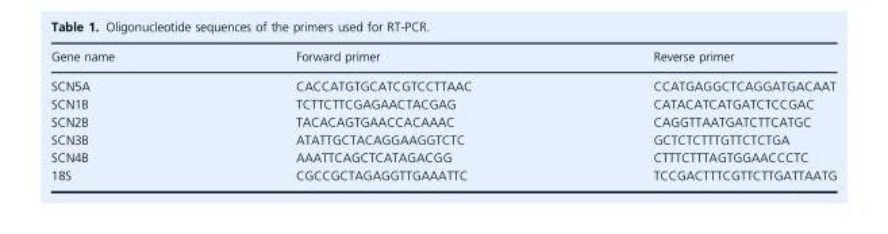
<table><thead><tr><td>Gene name</td><td>Forward primer</td><td>Reverse primer</td></tr></thead><tbody><tr><td>SCN5A</td><td>CACCATGTGCATCGTCCTTAAC</td><td>CCATGAGGCTCAGGATGACAAT</td></tr><tr><td>SCN1B</td><td>TCTTCTTCGAGAACTACGAG</td><td>CATACATCATGATCTCCGAC</td></tr><tr><td>SCN2B</td><td>TACACAGTGAACCACAAAC</td><td>CAGGTTAATGATCTTCATGC</td></tr><tr><td>SCN3B</td><td>ATATTGCTACAGGAAGGTCTC</td><td>GCTCTCTTTGTTCTCTGA</td></tr><tr><td>SCN4B</td><td>AAATTCAGCTCATAGACGG</td><td>CTTTCTTTAGTGGAACCCTC</td></tr><tr><td>18S</td><td>CGCCGCTAGAGGTTGAAATTC</td><td>TCCGACTTTCGTTCTTGATTAATG</td></tr></tbody></table>